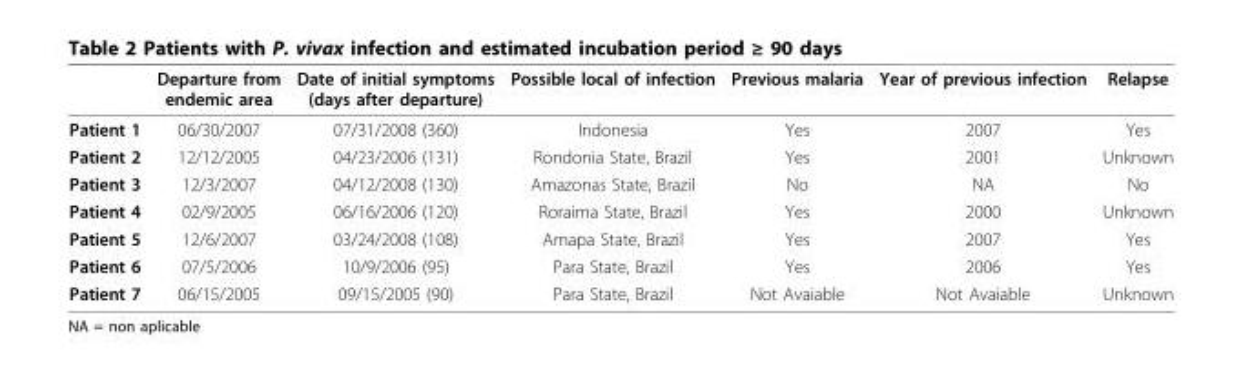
<table><thead><tr><td></td><td>Departure from endemic area</td><td>Date of initial symptoms (days after departure)</td><td>Possible local of infection</td><td>Previous malaria</td><td>Year of previous infection</td><td>Relapse</td></tr></thead><tbody><tr><td>Patient 1</td><td>06/30/2007</td><td>07/31/2008 (360)</td><td>Indonesia</td><td>Yes</td><td>2007</td><td>Yes</td></tr><tr><td>Patient 2</td><td>12/12/2005</td><td>04/23/2006 (131)</td><td>Rondonia State, Brazil</td><td>Yes</td><td>2001</td><td>Unknown</td></tr><tr><td>Patient 3</td><td>12/3/2007</td><td>04/12/2008 (130)</td><td>Amazonas State, Brazil</td><td>No</td><td>NA</td><td>No</td></tr><tr><td>Patient 4</td><td>02/9/2005</td><td>06/16/2006 (120)</td><td>Roraima State, Brazil</td><td>Yes</td><td>2000</td><td>Unknown</td></tr><tr><td>Patient 5</td><td>12/6/2007</td><td>03/24/2008 (108)</td><td>Amapa State, Brazil</td><td>Yes</td><td>2007</td><td>Yes</td></tr><tr><td>Patient 6</td><td>07/5/2006</td><td>10/9/2006 (95)</td><td>Para State, Brazil</td><td>Yes</td><td>2006</td><td>Yes</td></tr><tr><td>Patient 7</td><td>06/15/2005</td><td>09/15/2005 (90)</td><td>Para State, Brazil</td><td>Not Avaiable</td><td>Not Avaiable</td><td>Unknown</td></tr></tbody></table>